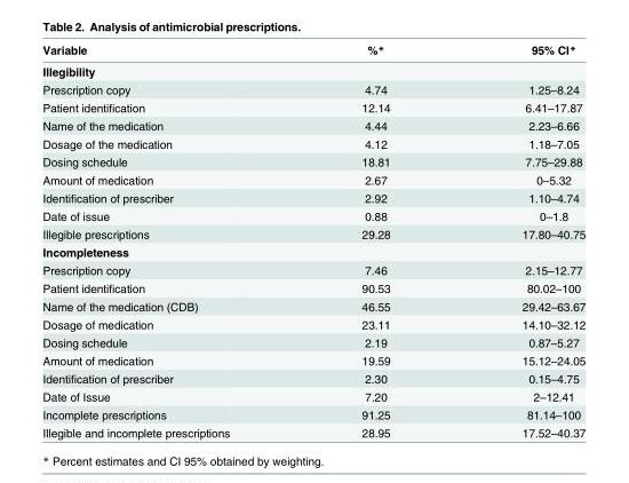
<table><thead><tr><td>Variable</td><td>%*</td><td>95% CI*</td></tr></thead><tbody><tr><td colspan="3">Illegibility</td></tr><tr><td>Prescription copy</td><td>4.74</td><td>1.25–8.24</td></tr><tr><td>Patient identification</td><td>12.14</td><td>6.41–17.87</td></tr><tr><td>Name of the medication</td><td>4.44</td><td>2.23–6.66</td></tr><tr><td>Dosage of the medication</td><td>4.12</td><td>1.18–7.05</td></tr><tr><td>Dosing schedule</td><td>18.81</td><td>7.75–29.88</td></tr><tr><td>Amount of medication</td><td>2.67</td><td>0–5.32</td></tr><tr><td>Identification of prescriber</td><td>2.92</td><td>1.10–4.74</td></tr><tr><td>Date of issue</td><td>0.88</td><td>0–1.8</td></tr><tr><td>Illegible prescriptions</td><td>29.28</td><td>17.80–40.75</td></tr><tr><td colspan="3">Incompleteness</td></tr><tr><td>Prescription copy</td><td>7.46</td><td>2.15–12.77</td></tr><tr><td>Patient identification</td><td>90.53</td><td>80.02–100</td></tr><tr><td>Name of the medication (CDB)</td><td>46.55</td><td>29.42–63.67</td></tr><tr><td>Dosage of medication</td><td>23.11</td><td>14.10–32.12</td></tr><tr><td>Dosing schedule</td><td>2.19</td><td>0.87–5.27</td></tr><tr><td>Amount of medication</td><td>19.59</td><td>15.12–24.05</td></tr><tr><td>Identification of prescriber</td><td>2.30</td><td>0.15–4.75</td></tr><tr><td>Date of Issue</td><td>7.20</td><td>2–12.41</td></tr><tr><td>Incomplete prescriptions</td><td>91.25</td><td>81.14–100</td></tr><tr><td>Illegible and incomplete prescriptions</td><td>28.95</td><td>17.52–40.37</td></tr></tbody></table>